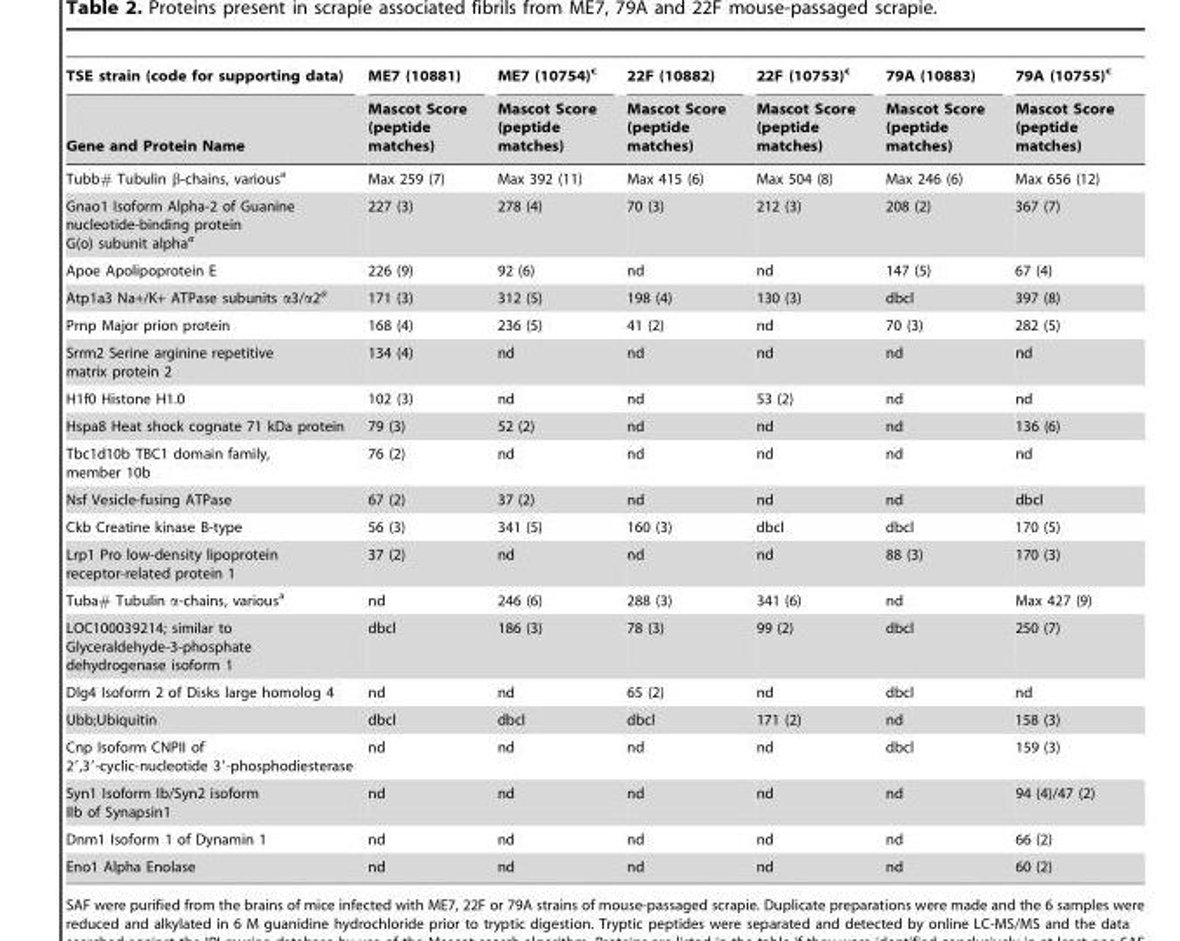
<table><thead><tr><td rowspan="2">TSE strain (code for supporting data) Gene and Protein Name</td><td rowspan="2">ME7 (10881) Mascot Score (peptide matches)</td><td rowspan="2">ME7 (10754)<sup>c</sup> Mascot Score (peptide matches)</td><td rowspan="2">22F (10882) Mascot Score (peptide matches)</td><td rowspan="2">22F (10753)<sup>c</sup> Mascot Score (peptide matches)</td><td rowspan="2">79A (10883) Mascot Score (peptide matches)</td><td rowspan="2">79A (10755)<sup>c</sup> Mascot Score (peptide matches)</td></tr><tr></tr></thead><tbody><tr><td>Tubb# Tubulin β-chains, various<sup>a</sup></td><td>Max 259 (7)</td><td>Max 392 (11)</td><td>Max 415 (6)</td><td>Max 504 (8)</td><td>Max 246 (6)</td><td>Max 656 (12)</td></tr><tr><td>Gnao1 Isoform Alpha-2 of Guanine nucleotide-binding protein G(o) subunit alpha<sup>a</sup></td><td>227 (3)</td><td>278 (4)</td><td>70 (3)</td><td>212 (3)</td><td>208 (2)</td><td>367 (7)</td></tr><tr><td>Apoe Apolipoprotein E</td><td>226 (9)</td><td>92 (6)</td><td>nd</td><td>nd</td><td>147 (5)</td><td>67 (4)</td></tr><tr><td>Atp1a3 Na+/K+ ATPase subunits α3/α2<sup>a</sup></td><td>171 (3)</td><td>312 (5)</td><td>198 (4)</td><td>130 (3)</td><td>dbcl</td><td>397 (8)</td></tr><tr><td>Prnp Major prion protein</td><td>168 (4)</td><td>236 (5)</td><td>41 (2)</td><td>nd</td><td>70 (3)</td><td>282 (5)</td></tr><tr><td>Srrm2 Serine arginine repetitive matrix protein 2</td><td>134 (4)</td><td>nd</td><td>nd</td><td>nd</td><td>nd</td><td>nd</td></tr><tr><td>H1f0 Histone H1.0</td><td>102 (3)</td><td>nd</td><td>nd</td><td>53 (2)</td><td>nd</td><td>nd</td></tr><tr><td>Hspa8 Heat shock cognate 71 kDa protein</td><td>79 (3)</td><td>52 (2)</td><td>nd</td><td>nd</td><td>nd</td><td>136 (6)</td></tr><tr><td>Tbc1d10b TBC1 domain family, member 10b</td><td>76 (2)</td><td>nd</td><td>nd</td><td>nd</td><td>nd</td><td>nd</td></tr><tr><td>Nsf Vesicle-fusing ATPase</td><td>67 (2)</td><td>37 (2)</td><td>nd</td><td>nd</td><td>nd</td><td>dbcl</td></tr><tr><td>Ckb Creatine kinase B-type</td><td>56 (3)</td><td>341 (5)</td><td>160 (3)</td><td>dbcl</td><td>dbcl</td><td>170 (5)</td></tr><tr><td>Lrp1 Pro low-density lipoprotein receptor-related protein 1</td><td>37 (2)</td><td>nd</td><td>nd</td><td>nd</td><td>88 (3)</td><td>170 (3)</td></tr><tr><td>Tuba# Tubulin α-chains, various<sup>a</sup></td><td>nd</td><td>246 (6)</td><td>288 (3)</td><td>341 (6)</td><td>nd</td><td>Max 427 (9)</td></tr><tr><td>LOC100039214; similar to Glyceraldehyde-3-phosphate dehydrogenase isoform 1</td><td>dbcl</td><td>186 (3)</td><td>78 (3)</td><td>99 (2)</td><td>dbcl</td><td>250 (7)</td></tr><tr><td>Dlg4 Isoform 2 of Disks large homolog 4</td><td>nd</td><td>nd</td><td>65 (2)</td><td>nd</td><td>dbcl</td><td>nd</td></tr><tr><td>Ubb;Ubiquitin</td><td>dbcl</td><td>dbcl</td><td>dbcl</td><td>171 (2)</td><td>nd</td><td>158 (3)</td></tr><tr><td>Cnp Isoform CNPII of 2′,3′-cyclic-nucleotide 3′-phosphodiesterase</td><td>nd</td><td>nd</td><td>nd</td><td>nd</td><td>dbcl</td><td>159 (3)</td></tr><tr><td>Syn1 Isoform Ib/Syn2 isoform IIb of Synapsin1</td><td>nd</td><td>nd</td><td>nd</td><td>nd</td><td>nd</td><td>94 (4)/47 (2)</td></tr><tr><td>Dnm1 Isoform 1 of Dynamin 1</td><td>nd</td><td>nd</td><td>nd</td><td>nd</td><td>nd</td><td>66 (2)</td></tr><tr><td>Eno1 Alpha Enolase</td><td>nd</td><td>nd</td><td>nd</td><td>nd</td><td>nd</td><td>60 (2)</td></tr></tbody></table>